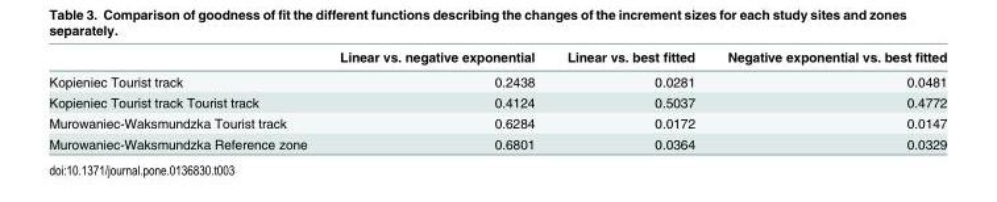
<table><thead><tr><td></td><td>Linear vs. negative exponential</td><td>Linear vs. best fitted</td><td>Negative exponential vs. best fitted</td></tr></thead><tbody><tr><td>Kopieniec Tourist track</td><td>0.2438</td><td>0.0281</td><td>0.0481</td></tr><tr><td>Kopieniec Tourist track Tourist track</td><td>0.4124</td><td>0.5037</td><td>0.4772</td></tr><tr><td>Murowaniec-Waksmundzka Tourist track</td><td>0.6284</td><td>0.0172</td><td>0.0147</td></tr><tr><td>Murowaniec-Waksmundzka Reference zone</td><td>0.6801</td><td>0.0364</td><td>0.0329</td></tr></tbody></table>